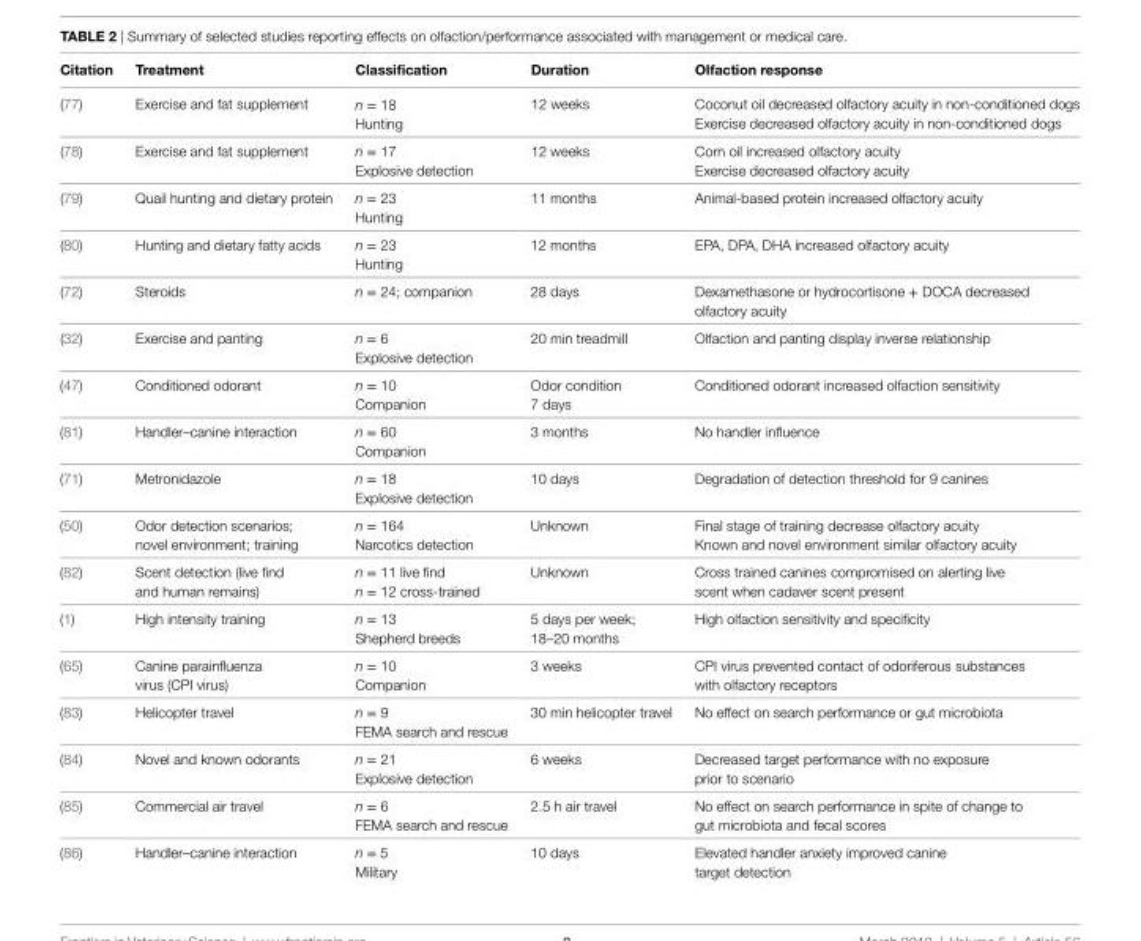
<table><thead><tr><td>Citation</td><td>Treatment</td><td>Classification</td><td>Duration</td><td>Olfaction response</td></tr></thead><tbody><tr><td>(77)</td><td>Exercise and fat supplement</td><td>n = 18 Hunting</td><td>12 weeks</td><td>Coconut oil decreased olfactory acuity in non-conditioned dogs Exercise decreased olfactory acuity in non-conditioned dogs</td></tr><tr><td>(78)</td><td>Exercise and fat supplement</td><td>n = 17 Explosive detection</td><td>12 weeks</td><td>Corn oil increased olfactory acuity Exercise decreased olfactory acuity</td></tr><tr><td>(79)</td><td>Quail hunting and dietary protein</td><td>n = 23 Hunting</td><td>11 months</td><td>Animal-based protein increased olfactory acuity</td></tr><tr><td>(80)</td><td>Hunting and dietary fatty acids</td><td>n = 23 Hunting</td><td>12 months</td><td>EPA, DPA, DHA increased olfactory acuity</td></tr><tr><td>(72)</td><td>Steroids</td><td>n = 24; companion</td><td>28 days</td><td>Dexamethasone or hydrocortisone + DOCA decreased olfactory acuity</td></tr><tr><td>(32)</td><td>Exercise and panting</td><td>n = 6 Explosive detection</td><td>20 min treadmill</td><td>Olfaction and panting display inverse relationship</td></tr><tr><td>(47)</td><td>Conditioned odorant</td><td>n = 10 Companion</td><td>Odor condition 7 days</td><td>Conditioned odorant increased olfaction sensitivity</td></tr><tr><td>(81)</td><td>Handler–canine interaction</td><td>n = 60 Companion</td><td>3 months</td><td>No handler influence</td></tr><tr><td>(71)</td><td>Metronidazole</td><td>n = 18 Explosive detection</td><td>10 days</td><td>Degradation of detection threshold for 9 canines</td></tr><tr><td>(50)</td><td>Odor detection scenarios; novel environment; training</td><td>n = 164 Narcotics detection</td><td>Unknown</td><td>Final stage of training decrease olfactory acuity Known and novel environment similar olfactory acuity</td></tr><tr><td>(82)</td><td>Scent detection (live find and human remains)</td><td>n = 11 live find n = 12 cross-trained</td><td>Unknown</td><td>Cross trained canines compromised on alerting live scent when cadaver scent present</td></tr><tr><td>(1)</td><td>High intensity training</td><td>n = 13 Shepherd breeds</td><td>5 days per week; 18–20 months</td><td>High olfaction sensitivity and specificity</td></tr><tr><td>(65)</td><td>Canine parainfluenza virus (CPI virus)</td><td>n = 10 Companion</td><td>3 weeks</td><td>CPI virus prevented contact of odoriferous substances with olfactory receptors</td></tr><tr><td>(83)</td><td>Helicopter travel</td><td>n = 9 FEMA search and rescue</td><td>30 min helicopter travel</td><td>No effect on search performance or gut microbiota</td></tr><tr><td>(84)</td><td>Novel and known odorants</td><td>n = 21 Explosive detection</td><td>6 weeks</td><td>Decreased target performance with no exposure prior to scenario</td></tr><tr><td>(85)</td><td>Commercial air travel</td><td>n = 6 FEMA search and rescue</td><td>2.5 h air travel</td><td>No effect on search performance in spite of change to gut microbiota and fecal scores</td></tr><tr><td>(86)</td><td>Handler–canine interaction</td><td>n = 5 Military</td><td>10 days</td><td>Elevated handler anxiety improved canine target detection</td></tr></tbody></table>